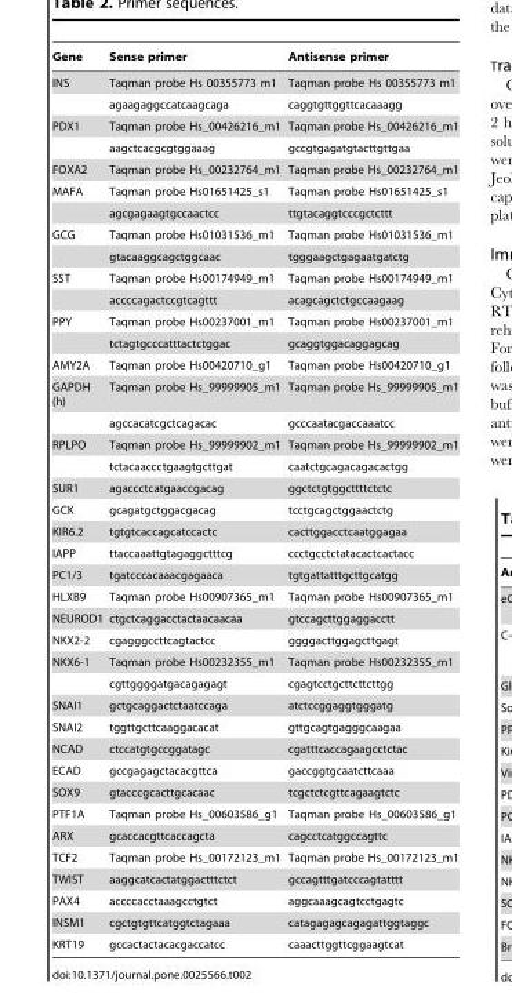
<table><thead><tr><td>Gene</td><td>Sense primer</td><td>Antisense primer</td></tr></thead><tbody><tr><td rowspan="2">INS</td><td>Taqman probe Hs 00355773 m1</td><td>Taqman probe Hs 00355773 m1</td></tr><tr><td>agaagaggccatcaagcaga</td><td>caggtgttggttcacaaagg</td></tr><tr><td rowspan="2">PDX1</td><td>Taqman probe Hs_00426216_m1</td><td>Taqman probe Hs_00426216_m1</td></tr><tr><td>aagctcacgcgtggaaag</td><td>gccgtgagatgtacttgttgaa</td></tr><tr><td>FOXA2</td><td>Taqman probe Hs_00232764_m1</td><td>Taqman probe Hs_00232764_m1</td></tr><tr><td rowspan="2">MAFA</td><td>Taqman probe Hs01651425_s1</td><td>Taqman probe Hs01651425_s1</td></tr><tr><td>agcgagaagtgccaactcc</td><td>ttgtacaggtcccgctcttt</td></tr><tr><td rowspan="2">GCG</td><td>Taqman probe Hs01031536_m1</td><td>Taqman probe Hs01031536_m1</td></tr><tr><td>gtacaaggcagctggcaac</td><td>tgggaagctgagaatgatctg</td></tr><tr><td rowspan="2">SST</td><td>Taqman probe Hs00174949_m1</td><td>Taqman probe Hs00174949_m1</td></tr><tr><td>accccagactccgtcagttt</td><td>acagcagctctgccaagaag</td></tr><tr><td rowspan="2">PPY</td><td>Taqman probe Hs00237001_m1</td><td>Taqman probe Hs00237001_m1</td></tr><tr><td>tctagtgcccatttactctggac</td><td>gcaggtggacaggagcag</td></tr><tr><td>AMY2A</td><td>Taqman probe Hs00420710_g1</td><td>Taqman probe Hs00420710_g1</td></tr><tr><td rowspan="2">GAPDH (h)</td><td>Taqman probe Hs_99999905_m1</td><td>Taqman probe Hs_99999905_m1</td></tr><tr><td>agccacatcgctcagacac</td><td>gcccaatacgaccaaatcc</td></tr><tr><td rowspan="2">RPLPO</td><td>Taqman probe Hs_99999902_m1</td><td>Taqman probe Hs_99999902_m1</td></tr><tr><td>tctacaaccctgaagtgcttgat</td><td>caatctgcagacagacactgg</td></tr><tr><td>SUR1</td><td>agaccctcatgaaccgacag</td><td>ggctctgtggcttttctctc</td></tr><tr><td>GCK</td><td>gcagatgctggacgacag</td><td>tcctgcagctggaactctg</td></tr><tr><td>KIR6.2</td><td>tgtgtcaccagcatccactc</td><td>cacttggacctcaatggagaa</td></tr><tr><td>IAPP</td><td>ttaccaaattgtagaggctttcg</td><td>ccctgcctctatacactcactacc</td></tr><tr><td>PC1/3</td><td>tgatcccacaaacgagaaca</td><td>tgtgattatttgcttgcatgg</td></tr><tr><td>HLXB9</td><td>Taqman probe Hs00907365_m1</td><td>Taqman probe Hs00907365_m1</td></tr><tr><td>NEUROD1</td><td>ctgctcaggacctactaacaacaa</td><td>gtccagcttggaggacctt</td></tr><tr><td>NKX2-2</td><td>cgagggccttcagtactcc</td><td>ggggacttggagcttgagt</td></tr><tr><td rowspan="2">NKX6-1</td><td>Taqman probe Hs00232355_m1</td><td>Taqman probe Hs00232355_m1</td></tr><tr><td>cgttggggatgacagagagt</td><td>cgagtcctgcttcttcttgg</td></tr><tr><td>SNAI1</td><td>gctgcaggactctaatccaga</td><td>atctccggaggtgggatg</td></tr><tr><td>SNAI2</td><td>tggttgcttcaaggacacat</td><td>gttgcagtgagggcaagaa</td></tr><tr><td>NCAD</td><td>ctccatgtgccggatagc</td><td>cgatttcaccagaagcctctac</td></tr><tr><td>ECAD</td><td>gccgagagctacacgttca</td><td>gaccggtgcaatcttcaaa</td></tr><tr><td>SOX9</td><td>gtacccgcacttgcacaac</td><td>tcgctctcgttcagaagtctc</td></tr><tr><td>PTF1A</td><td>Taqman probe Hs_00603586_g1</td><td>Taqman probe Hs_00603586_g1</td></tr><tr><td>ARX</td><td>gcaccacgttcaccagcta</td><td>cagcctcatggccagttc</td></tr><tr><td>TCF2</td><td>Taqman probe Hs_00172123_m1</td><td>Taqman probe Hs_00172123_m1</td></tr><tr><td>TWIST</td><td>aaggcatcactatggactttctct</td><td>gccagtttgatcccagtatttt</td></tr><tr><td>PAX4</td><td>accccacctaaagcctgtct</td><td>aggcaaagcagtcctgagtc</td></tr><tr><td>INSM1</td><td>cgctgtgttcatggtctagaaa</td><td>catagagagcagagattggtaggc</td></tr><tr><td>KRT19</td><td>gccactactacacgaccatcc</td><td>caaacttggttcggaagtcat</td></tr></tbody></table>